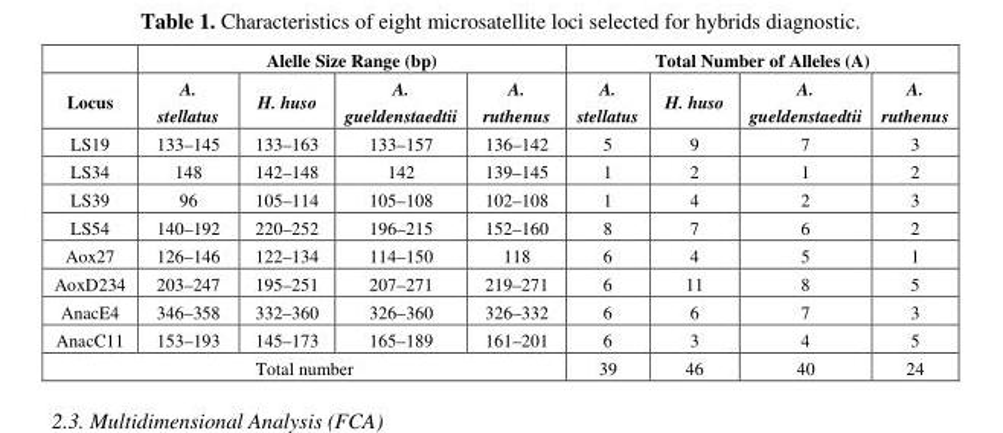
<table><thead><tr><td rowspan="2">Locus</td><td colspan="4">Alelle Size Range (bp)</td><td colspan="4">Total Number of Alleles (A)</td></tr><tr><td>A. stellatus</td><td>H. huso</td><td>A. gueldenstaedtii</td><td>A. ruthenus</td><td>A. stellatus</td><td>H. huso</td><td>A. gueldenstaedtii</td><td>A. ruthenus</td></tr></thead><tbody><tr><td>LS19</td><td>133–145</td><td>133–163</td><td>133–157</td><td>136–142</td><td>5</td><td>9</td><td>7</td><td>3</td></tr><tr><td>LS34</td><td>148</td><td>142–148</td><td>142</td><td>139–145</td><td>1</td><td>2</td><td>1</td><td>2</td></tr><tr><td>LS39</td><td>96</td><td>105–114</td><td>105–108</td><td>102–108</td><td>1</td><td>4</td><td>2</td><td>3</td></tr><tr><td>LS54</td><td>140–192</td><td>220–252</td><td>196–215</td><td>152–160</td><td>8</td><td>7</td><td>6</td><td>2</td></tr><tr><td>Aox27</td><td>126–146</td><td>122–134</td><td>114–150</td><td>118</td><td>6</td><td>4</td><td>5</td><td>1</td></tr><tr><td>AoxD234</td><td>203–247</td><td>195–251</td><td>207–271</td><td>219–271</td><td>6</td><td>11</td><td>8</td><td>5</td></tr><tr><td>AnacE4</td><td>346–358</td><td>332–360</td><td>326–360</td><td>326–332</td><td>6</td><td>6</td><td>7</td><td>3</td></tr><tr><td>AnacC11</td><td>153–193</td><td>145–173</td><td>165–189</td><td>161–201</td><td>6</td><td>3</td><td>4</td><td>5</td></tr><tr><td colspan="5">Total number</td><td>39</td><td>46</td><td>40</td><td>24</td></tr></tbody></table>